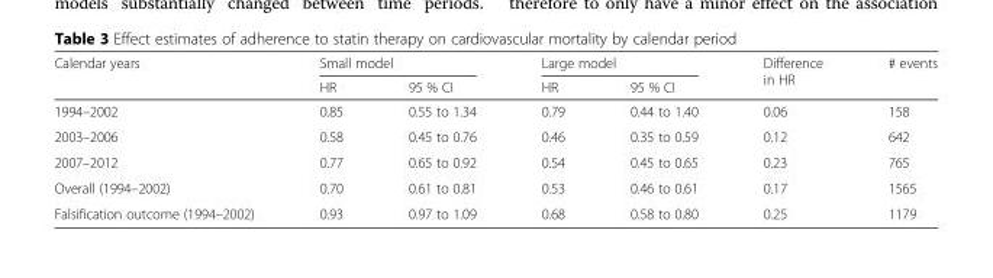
<table><thead><tr><td rowspan="2">Calendar years</td><td colspan="2">Small model</td><td colspan="2">Large model</td><td rowspan="2">Difference in HR</td><td rowspan="2"># events</td></tr><tr><td>HR</td><td>95 % CI</td><td>HR</td><td>95 % CI</td></tr></thead><tbody><tr><td>1994–2002</td><td>0.85</td><td>0.55 to 1.34</td><td>0.79</td><td>0.44 to 1.40</td><td>0.06</td><td>158</td></tr><tr><td>2003–2006</td><td>0.58</td><td>0.45 to 0.76</td><td>0.46</td><td>0.35 to 0.59</td><td>0.12</td><td>642</td></tr><tr><td>2007–2012</td><td>0.77</td><td>0.65 to 0.92</td><td>0.54</td><td>0.45 to 0.65</td><td>0.23</td><td>765</td></tr><tr><td>Overall (1994–2002)</td><td>0.70</td><td>0.61 to 0.81</td><td>0.53</td><td>0.46 to 0.61</td><td>0.17</td><td>1565</td></tr><tr><td>Falsification outcome (1994–2002)</td><td>0.93</td><td>0.97 to 1.09</td><td>0.68</td><td>0.58 to 0.80</td><td>0.25</td><td>1179</td></tr></tbody></table>